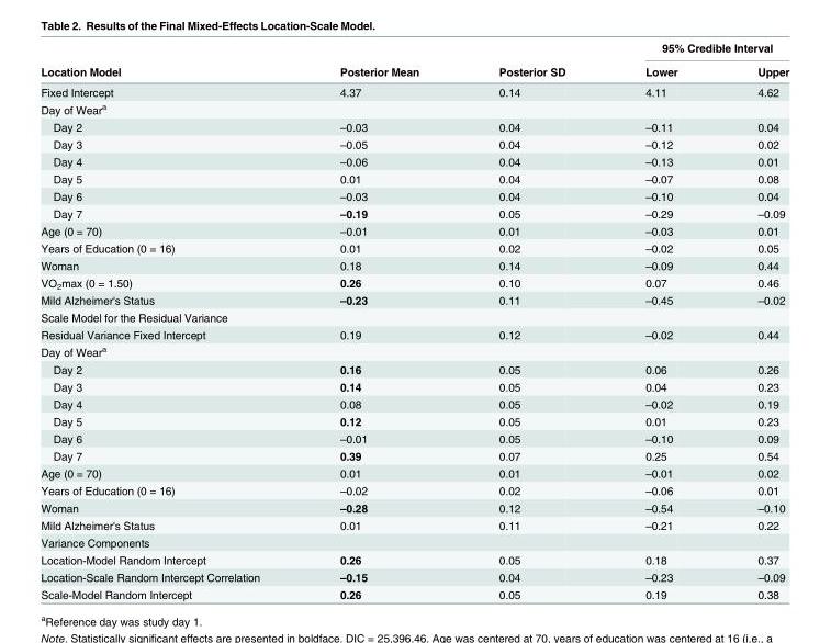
<table><thead><tr><td rowspan="2">Location Model</td><td rowspan="2">Posterior Mean</td><td rowspan="2">Posterior SD</td><td colspan="2">95% Credible Interval</td></tr><tr><td>Lower</td><td>Upper</td></tr></thead><tbody><tr><td>Fixed Intercept</td><td>4.37</td><td>0.14</td><td>4.11</td><td>4.62</td></tr><tr><td colspan="5">Day of Wear<sup>a</sup></td></tr><tr><td>Day 2</td><td>–0.03</td><td>0.04</td><td>–0.11</td><td>0.04</td></tr><tr><td>Day 3</td><td>–0.05</td><td>0.04</td><td>–0.12</td><td>0.02</td></tr><tr><td>Day 4</td><td>–0.06</td><td>0.04</td><td>–0.13</td><td>0.01</td></tr><tr><td>Day 5</td><td>0.01</td><td>0.04</td><td>–0.07</td><td>0.08</td></tr><tr><td>Day 6</td><td>–0.03</td><td>0.04</td><td>–0.10</td><td>0.04</td></tr><tr><td>Day 7</td><td>–0.19</td><td>0.05</td><td>–0.29</td><td>–0.09</td></tr><tr><td>Age (0 = 70)</td><td>–0.01</td><td>0.01</td><td>–0.03</td><td>0.01</td></tr><tr><td>Years of Education (0 = 16)</td><td>0.01</td><td>0.02</td><td>–0.02</td><td>0.05</td></tr><tr><td>Woman</td><td>0.18</td><td>0.14</td><td>–0.09</td><td>0.44</td></tr><tr><td>VO<sub>2</sub>max (0 = 1.50)</td><td>0.26</td><td>0.10</td><td>0.07</td><td>0.46</td></tr><tr><td>Mild Alzheimer&#x27;s Status</td><td>–0.23</td><td>0.11</td><td>–0.45</td><td>–0.02</td></tr><tr><td colspan="5">Scale Model for the Residual Variance</td></tr><tr><td>Residual Variance Fixed Intercept</td><td>0.19</td><td>0.12</td><td>–0.02</td><td>0.44</td></tr><tr><td colspan="5">Day of Wear<sup>a</sup></td></tr><tr><td>Day 2</td><td>0.16</td><td>0.05</td><td>0.06</td><td>0.26</td></tr><tr><td>Day 3</td><td>0.14</td><td>0.05</td><td>0.04</td><td>0.23</td></tr><tr><td>Day 4</td><td>0.08</td><td>0.05</td><td>–0.02</td><td>0.19</td></tr><tr><td>Day 5</td><td>0.12</td><td>0.05</td><td>0.01</td><td>0.23</td></tr><tr><td>Day 6</td><td>–0.01</td><td>0.05</td><td>–0.10</td><td>0.09</td></tr><tr><td>Day 7</td><td>0.39</td><td>0.07</td><td>0.25</td><td>0.54</td></tr><tr><td>Age (0 = 70)</td><td>0.01</td><td>0.01</td><td>–0.01</td><td>0.02</td></tr><tr><td>Years of Education (0 = 16)</td><td>–0.02</td><td>0.02</td><td>–0.06</td><td>0.01</td></tr><tr><td>Woman</td><td>–0.28</td><td>0.12</td><td>–0.54</td><td>–0.10</td></tr><tr><td>Mild Alzheimer&#x27;s Status</td><td>0.01</td><td>0.11</td><td>–0.21</td><td>0.22</td></tr><tr><td colspan="5">Variance Components</td></tr><tr><td>Location-Model Random Intercept</td><td>0.26</td><td>0.05</td><td>0.18</td><td>0.37</td></tr><tr><td>Location-Scale Random Intercept Correlation</td><td>–0.15</td><td>0.04</td><td>–0.23</td><td>–0.09</td></tr><tr><td>Scale-Model Random Intercept</td><td>0.26</td><td>0.05</td><td>0.19</td><td>0.38</td></tr></tbody></table>